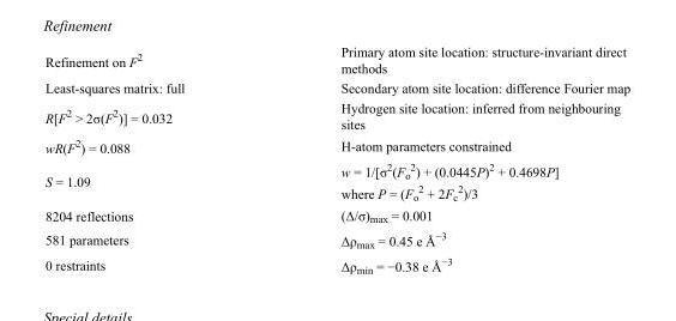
<table><tbody><tr><td>Refinement on F<sup>2</sup></td><td>Primary atom site location: structure-invariant direct methods</td></tr><tr><td>Least-squares matrix: full</td><td>Secondary atom site location: difference Fourier map</td></tr><tr><td>R[F<sup>2</sup> &gt; 2σ(F<sup>2</sup>)] = 0.032</td><td>Hydrogen site location: inferred from neighbouring sites</td></tr><tr><td>wR(F<sup>2</sup>) = 0.088</td><td>H-atom parameters constrained</td></tr><tr><td>S = 1.09</td><td>w = 1/[σ<sup>2</sup>(F<sub>o</sub> <sup>2</sup>) + (0.0445P)<sup>2</sup> + 0.4698P] where P = (F<sub>o</sub> <sup>2</sup> + 2F<sub>c</sub> <sup>2</sup>)/3</td></tr><tr><td>8204 reflections</td><td>(Δ/σ)<sub>max</sub> = 0.001</td></tr><tr><td>581 parameters</td><td>Δρ<sub>max</sub> = 0.45 e Å<sup>−3</sup></td></tr><tr><td>0 restraints</td><td>Δρ<sub>min</sub> = −0.38 e Å<sup>−3</sup></td></tr></tbody></table>